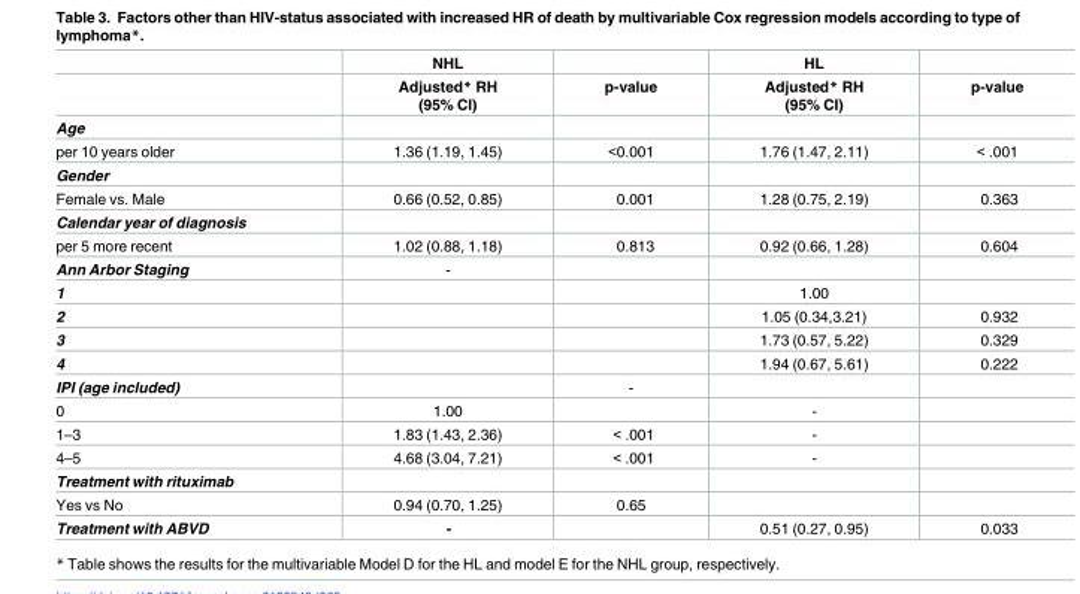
<table><thead><tr><td rowspan="2"></td><td rowspan="2">NHL Adjusted* RH (95% CI)</td><td rowspan="2">p-value</td><td rowspan="2">HL Adjusted* RH (95% CI)</td><td rowspan="2">p-value</td></tr><tr></tr></thead><tbody><tr><td colspan="5">Age</td></tr><tr><td>per 10 years older</td><td>1.36 (1.19, 1.45)</td><td>&lt;0.001</td><td>1.76 (1.47, 2.11)</td><td>&lt; .001</td></tr><tr><td colspan="5">Gender</td></tr><tr><td>Female vs. Male</td><td>0.66 (0.52, 0.85)</td><td>0.001</td><td>1.28 (0.75, 2.19)</td><td>0.363</td></tr><tr><td colspan="5">Calendar year of diagnosis</td></tr><tr><td>per 5 more recent</td><td>1.02 (0.88, 1.18)</td><td>0.813</td><td>0.92 (0.66, 1.28)</td><td>0.604</td></tr><tr><td>Ann Arbor Staging</td><td>-</td><td></td><td></td><td></td></tr><tr><td>1</td><td></td><td></td><td>1.00</td><td></td></tr><tr><td>2</td><td></td><td></td><td>1.05 (0.34,3.21)</td><td>0.932</td></tr><tr><td>3</td><td></td><td></td><td>1.73 (0.57, 5.22)</td><td>0.329</td></tr><tr><td>4</td><td></td><td></td><td>1.94 (0.67, 5.61)</td><td>0.222</td></tr><tr><td>IPI (age included)</td><td></td><td>-</td><td></td><td></td></tr><tr><td>0</td><td>1.00</td><td></td><td>-</td><td></td></tr><tr><td>1–3</td><td>1.83 (1.43, 2.36)</td><td>&lt; .001</td><td>-</td><td></td></tr><tr><td>4–5</td><td>4.68 (3.04, 7.21)</td><td>&lt; .001</td><td>-</td><td></td></tr><tr><td colspan="5">Treatment with rituximab</td></tr><tr><td>Yes vs No</td><td>0.94 (0.70, 1.25)</td><td>0.65</td><td></td><td></td></tr><tr><td>Treatment with ABVD</td><td>-</td><td></td><td>0.51 (0.27, 0.95)</td><td>0.033</td></tr></tbody></table>